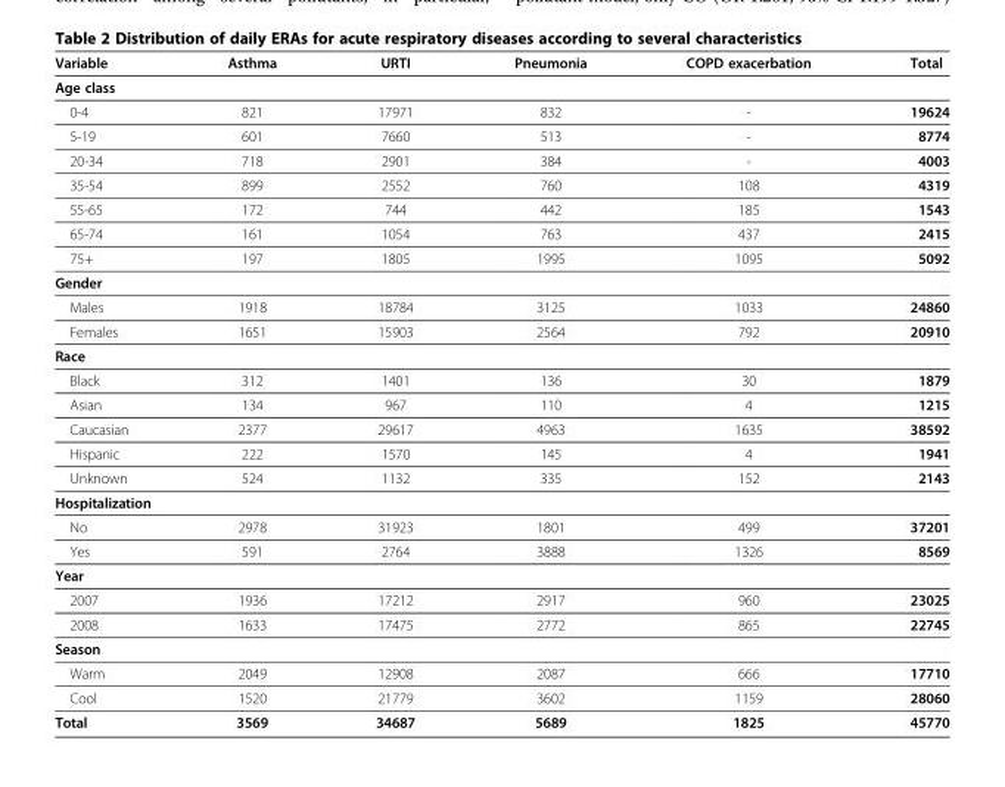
<table><thead><tr><td>Variable</td><td>Asthma</td><td>URTI</td><td>Pneumonia</td><td>COPD exacerbation</td><td>Total</td></tr></thead><tbody><tr><td colspan="6">Age class</td></tr><tr><td>0-4</td><td>821</td><td>17971</td><td>832</td><td>-</td><td>19624</td></tr><tr><td>5-19</td><td>601</td><td>7660</td><td>513</td><td>-</td><td>8774</td></tr><tr><td>20-34</td><td>718</td><td>2901</td><td>384</td><td>-</td><td>4003</td></tr><tr><td>35-54</td><td>899</td><td>2552</td><td>760</td><td>108</td><td>4319</td></tr><tr><td>55-65</td><td>172</td><td>744</td><td>442</td><td>185</td><td>1543</td></tr><tr><td>65-74</td><td>161</td><td>1054</td><td>763</td><td>437</td><td>2415</td></tr><tr><td>75+</td><td>197</td><td>1805</td><td>1995</td><td>1095</td><td>5092</td></tr><tr><td colspan="6">Gender</td></tr><tr><td>Males</td><td>1918</td><td>18784</td><td>3125</td><td>1033</td><td>24860</td></tr><tr><td>Females</td><td>1651</td><td>15903</td><td>2564</td><td>792</td><td>20910</td></tr><tr><td colspan="6">Race</td></tr><tr><td>Black</td><td>312</td><td>1401</td><td>136</td><td>30</td><td>1879</td></tr><tr><td>Asian</td><td>134</td><td>967</td><td>110</td><td>4</td><td>1215</td></tr><tr><td>Caucasian</td><td>2377</td><td>29617</td><td>4963</td><td>1635</td><td>38592</td></tr><tr><td>Hispanic</td><td>222</td><td>1570</td><td>145</td><td>4</td><td>1941</td></tr><tr><td>Unknown</td><td>524</td><td>1132</td><td>335</td><td>152</td><td>2143</td></tr><tr><td colspan="6">Hospitalization</td></tr><tr><td>No</td><td>2978</td><td>31923</td><td>1801</td><td>499</td><td>37201</td></tr><tr><td>Yes</td><td>591</td><td>2764</td><td>3888</td><td>1326</td><td>8569</td></tr><tr><td colspan="6">Year</td></tr><tr><td>2007</td><td>1936</td><td>17212</td><td>2917</td><td>960</td><td>23025</td></tr><tr><td>2008</td><td>1633</td><td>17475</td><td>2772</td><td>865</td><td>22745</td></tr><tr><td colspan="6">Season</td></tr><tr><td>Warm</td><td>2049</td><td>12908</td><td>2087</td><td>666</td><td>17710</td></tr><tr><td>Cool</td><td>1520</td><td>21779</td><td>3602</td><td>1159</td><td>28060</td></tr><tr><td>Total</td><td>3569</td><td>34687</td><td>5689</td><td>1825</td><td>45770</td></tr></tbody></table>